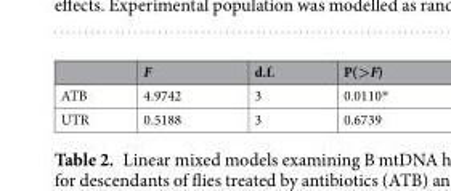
<table><thead><tr><td></td><td>F</td><td>d.f.</td><td>P(&gt;F)</td></tr></thead><tbody><tr><td>ATB</td><td>4.9742</td><td>3</td><td>0.0110*</td></tr><tr><td>UTR</td><td>0.5188</td><td>3</td><td>0.6739</td></tr></tbody></table>